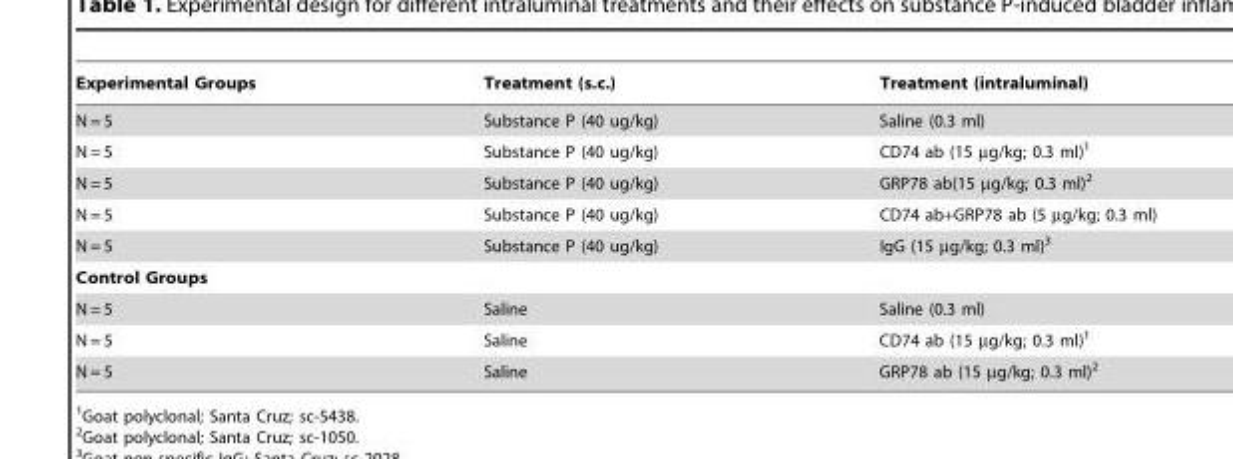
<table><thead><tr><td>Experimental Groups</td><td>Treatment (s.c.)</td><td>Treatment (intraluminal)</td></tr></thead><tbody><tr><td>N = 5</td><td>Substance P (40 ug/kg)</td><td>Saline (0.3 ml)</td></tr><tr><td>N = 5</td><td>Substance P (40 ug/kg)</td><td>CD74 ab (15 µg/kg; 0.3 ml)<sup>1</sup></td></tr><tr><td>N = 5</td><td>Substance P (40 ug/kg)</td><td>GRP78 ab(15 µg/kg; 0.3 ml)<sup>2</sup></td></tr><tr><td>N = 5</td><td>Substance P (40 ug/kg)</td><td>CD74 ab+GRP78 ab (5 µg/kg; 0.3 ml)</td></tr><tr><td>N = 5</td><td>Substance P (40 ug/kg)</td><td>IgG (15 µg/kg; 0.3 ml)<sup>3</sup></td></tr><tr><td colspan="3">Control Groups</td></tr><tr><td>N = 5</td><td>Saline</td><td>Saline (0.3 ml)</td></tr><tr><td>N = 5</td><td>Saline</td><td>CD74 ab (15 µg/kg; 0.3 ml)<sup>1</sup></td></tr><tr><td>N = 5</td><td>Saline</td><td>GRP78 ab (15 µg/kg; 0.3 ml)<sup>2</sup></td></tr></tbody></table>